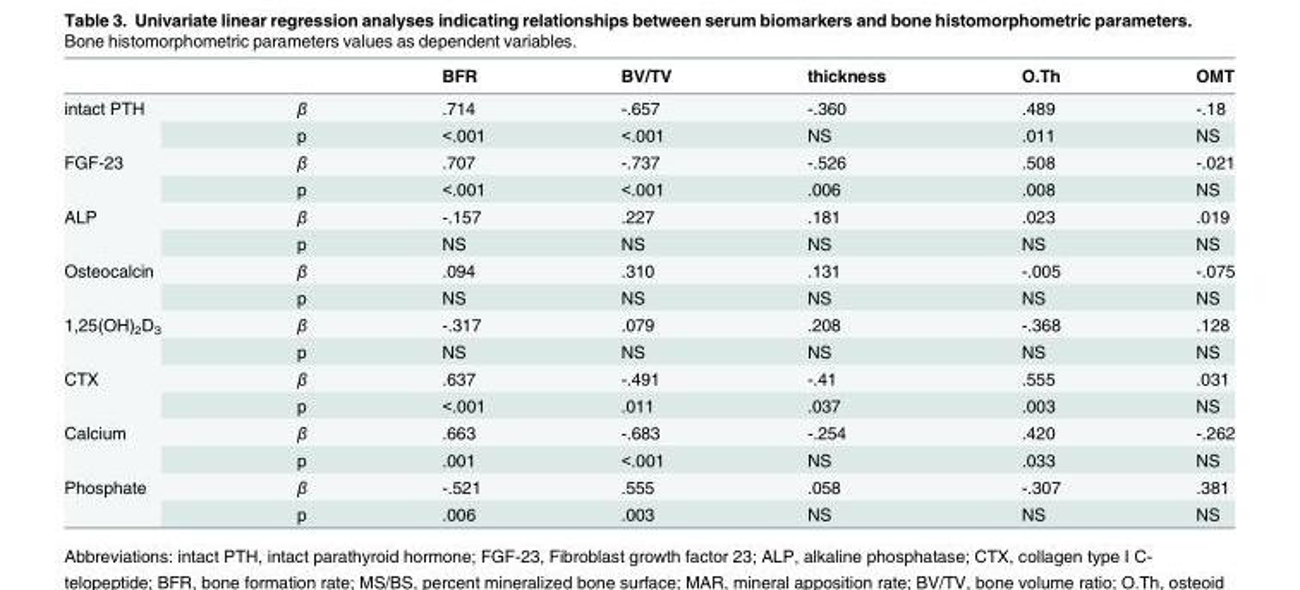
<table><thead><tr><td></td><td></td><td>BFR</td><td>BV/TV</td><td>thickness</td><td>O.Th</td><td>OMT</td></tr></thead><tbody><tr><td rowspan="2">intact PTH</td><td>β</td><td>.714</td><td>-.657</td><td>-.360</td><td>.489</td><td>-.18</td></tr><tr><td>p</td><td>&lt;.001</td><td>&lt;.001</td><td>NS</td><td>.011</td><td>NS</td></tr><tr><td rowspan="2">FGF-23</td><td>β</td><td>.707</td><td>-.737</td><td>-.526</td><td>.508</td><td>-.021</td></tr><tr><td>p</td><td>&lt;.001</td><td>&lt;.001</td><td>.006</td><td>.008</td><td>NS</td></tr><tr><td rowspan="2">ALP</td><td>β</td><td>-.157</td><td>.227</td><td>.181</td><td>.023</td><td>.019</td></tr><tr><td>p</td><td>NS</td><td>NS</td><td>NS</td><td>NS</td><td>NS</td></tr><tr><td rowspan="2">Osteocalcin</td><td>β</td><td>.094</td><td>.310</td><td>.131</td><td>-.005</td><td>-.075</td></tr><tr><td>p</td><td>NS</td><td>NS</td><td>NS</td><td>NS</td><td>NS</td></tr><tr><td rowspan="2">1,25(OH)<sub>2</sub>D<sub>3</sub></td><td>β</td><td>-.317</td><td>.079</td><td>.208</td><td>-.368</td><td>.128</td></tr><tr><td>p</td><td>NS</td><td>NS</td><td>NS</td><td>NS</td><td>NS</td></tr><tr><td rowspan="2">CTX</td><td>β</td><td>.637</td><td>-.491</td><td>-.41</td><td>.555</td><td>.031</td></tr><tr><td>p</td><td>&lt;.001</td><td>.011</td><td>.037</td><td>.003</td><td>NS</td></tr><tr><td rowspan="2">Calcium</td><td>β</td><td>.663</td><td>-.683</td><td>-.254</td><td>.420</td><td>-.262</td></tr><tr><td>p</td><td>.001</td><td>&lt;.001</td><td>NS</td><td>.033</td><td>NS</td></tr><tr><td rowspan="2">Phosphate</td><td>β</td><td>-.521</td><td>.555</td><td>.058</td><td>-.307</td><td>.381</td></tr><tr><td>p</td><td>.006</td><td>.003</td><td>NS</td><td>NS</td><td>NS</td></tr></tbody></table>